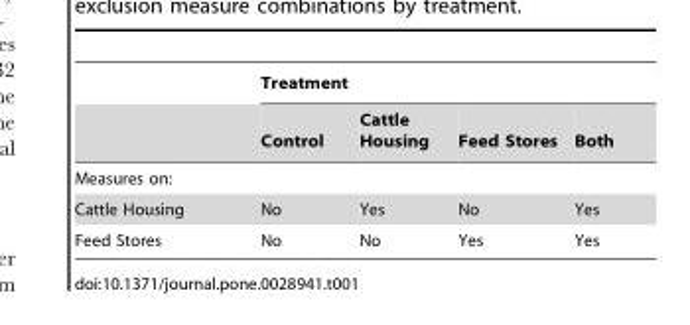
<table><thead><tr><td rowspan="2"></td><td colspan="4">Treatment</td></tr><tr><td>Control</td><td>Cattle Housing</td><td>Feed Stores</td><td>Both</td></tr></thead><tbody><tr><td colspan="5">Measures on:</td></tr><tr><td>Cattle Housing</td><td>No</td><td>Yes</td><td>No</td><td>Yes</td></tr><tr><td>Feed Stores</td><td>No</td><td>No</td><td>Yes</td><td>Yes</td></tr></tbody></table>